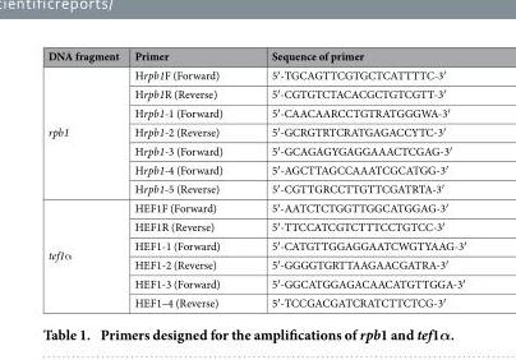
<table><thead><tr><td>DNA fragment</td><td>Primer</td><td>Sequence of primer</td></tr></thead><tbody><tr><td rowspan="7">rpb1</td><td>Hrpb1F (Forward)</td><td>5′-TGCAGTTCGTGCTCATTTTC-3′</td></tr><tr><td>Hrpb1R (Reverse)</td><td>5′-CGTGTCTACACGCTGTCGTT-3′</td></tr><tr><td>Hrpb1-1 (Forward)</td><td>5′-CAACAARCCTGTRATGGGWA-3′</td></tr><tr><td>Hrpb1-2 (Reverse)</td><td>5′-GCRGTRTCRATGAGACCYTC-3′</td></tr><tr><td>Hrpb1-3 (Forward)</td><td>5′-GCAGAGYGAGGAAACTCGAG-3′</td></tr><tr><td>Hrpb1-4 (Forward)</td><td>5′-AGCTTAGCCAAATCGCATGG-3′</td></tr><tr><td>Hrpb1-5 (Reverse)</td><td>5′-CGTTGRCCTTGTTCGATRTA-3′</td></tr><tr><td rowspan="6">tef1α</td><td>HEF1F (Forward)</td><td>5′-AATCTCTGGTTGGCATGGAG-3′</td></tr><tr><td>HEF1R (Reverse)</td><td>5′-TTCCATCGTCTTTCCTGTCC-3′</td></tr><tr><td>HEF1-1 (Forward)</td><td>5′-CATGTTGGAGGAATCWGTYAAG-3′</td></tr><tr><td>HEF1-2 (Reverse)</td><td>5′-GGGGTGRTTAAGAACGATRA-3′</td></tr><tr><td>HEF1-3 (Forward)</td><td>5′-GGCATGGAGACAACATGTTGGA-3′</td></tr><tr><td>HEF1–4 (Reverse)</td><td>5′-TCCGACGATCRATCTTCTCG-3′</td></tr></tbody></table>